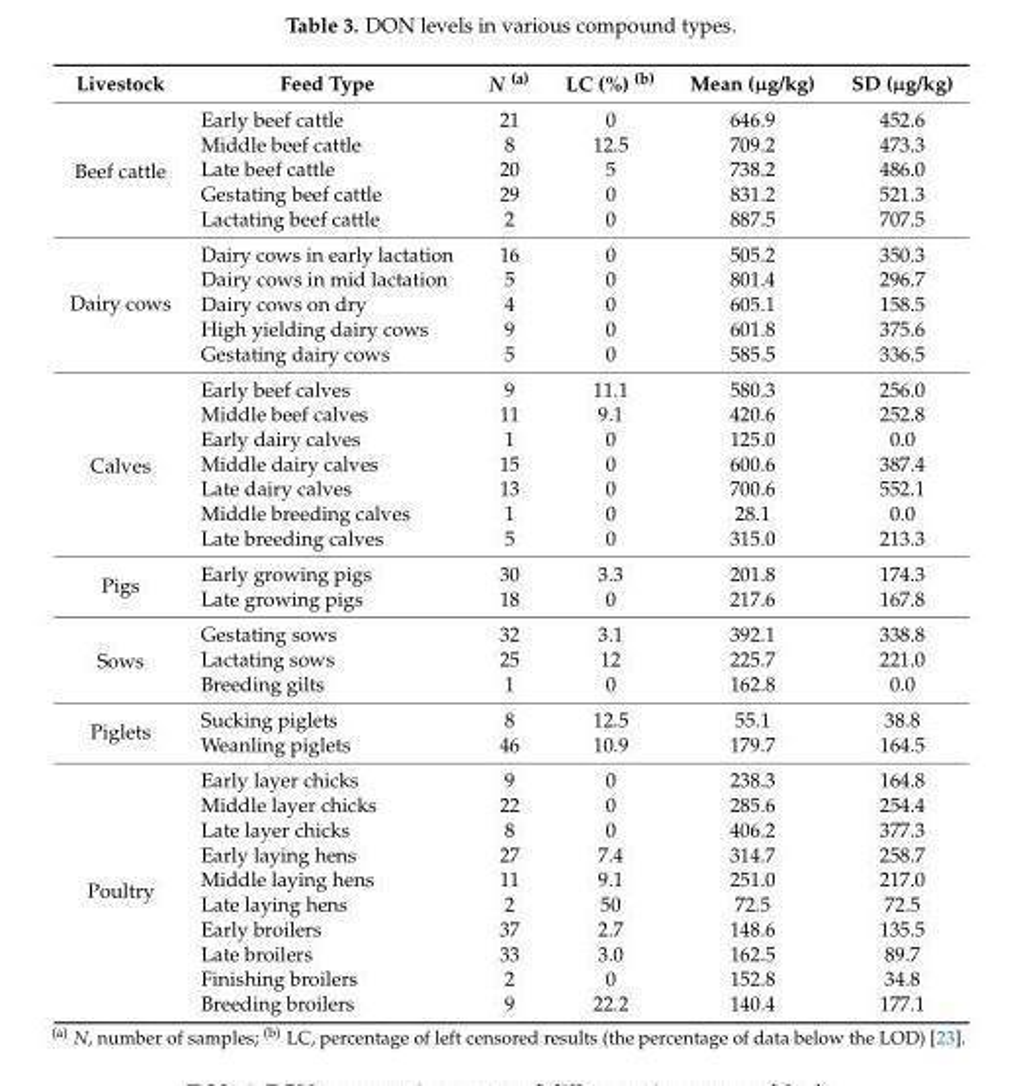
<table><thead><tr><td>Livestock</td><td>Feed Type</td><td>N <sup>(a)</sup></td><td>LC (%) <sup>(b)</sup></td><td>Mean (µg/kg)</td><td>SD (µg/kg)</td></tr></thead><tbody><tr><td rowspan="5">Beef cattle</td><td>Early beef cattle</td><td>21</td><td>0</td><td>646.9</td><td>452.6</td></tr><tr><td>Middle beef cattle</td><td>8</td><td>12.5</td><td>709.2</td><td>473.3</td></tr><tr><td>Late beef cattle</td><td>20</td><td>5</td><td>738.2</td><td>486.0</td></tr><tr><td>Gestating beef cattle</td><td>29</td><td>0</td><td>831.2</td><td>521.3</td></tr><tr><td>Lactating beef cattle</td><td>2</td><td>0</td><td>887.5</td><td>707.5</td></tr><tr><td rowspan="5">Dairy cows</td><td>Dairy cows in early lactation</td><td>16</td><td>0</td><td>505.2</td><td>350.3</td></tr><tr><td>Dairy cows in mid lactation</td><td>5</td><td>0</td><td>801.4</td><td>296.7</td></tr><tr><td>Dairy cows on dry</td><td>4</td><td>0</td><td>605.1</td><td>158.5</td></tr><tr><td>High yielding dairy cows</td><td>9</td><td>0</td><td>601.8</td><td>375.6</td></tr><tr><td>Gestating dairy cows</td><td>5</td><td>0</td><td>585.5</td><td>336.5</td></tr><tr><td rowspan="7">Calves</td><td>Early beef calves</td><td>9</td><td>11.1</td><td>580.3</td><td>256.0</td></tr><tr><td>Middle beef calves</td><td>11</td><td>9.1</td><td>420.6</td><td>252.8</td></tr><tr><td>Early dairy calves</td><td>1</td><td>0</td><td>125.0</td><td>0.0</td></tr><tr><td>Middle dairy calves</td><td>15</td><td>0</td><td>600.6</td><td>387.4</td></tr><tr><td>Late dairy calves</td><td>13</td><td>0</td><td>700.6</td><td>552.1</td></tr><tr><td>Middle breeding calves</td><td>1</td><td>0</td><td>28.1</td><td>0.0</td></tr><tr><td>Late breeding calves</td><td>5</td><td>0</td><td>315.0</td><td>213.3</td></tr><tr><td rowspan="2">Pigs</td><td>Early growing pigs</td><td>30</td><td>3.3</td><td>201.8</td><td>174.3</td></tr><tr><td>Late growing pigs</td><td>18</td><td>0</td><td>217.6</td><td>167.8</td></tr><tr><td rowspan="3">Sows</td><td>Gestating sows</td><td>32</td><td>3.1</td><td>392.1</td><td>338.8</td></tr><tr><td>Lactating sows</td><td>25</td><td>12</td><td>225.7</td><td>221.0</td></tr><tr><td>Breeding gilts</td><td>1</td><td>0</td><td>162.8</td><td>0.0</td></tr><tr><td rowspan="2">Piglets</td><td>Sucking piglets</td><td>8</td><td>12.5</td><td>55.1</td><td>38.8</td></tr><tr><td>Weanling piglets</td><td>46</td><td>10.9</td><td>179.7</td><td>164.5</td></tr><tr><td rowspan="10">Poultry</td><td>Early layer chicks</td><td>9</td><td>0</td><td>238.3</td><td>164.8</td></tr><tr><td>Middle layer chicks</td><td>22</td><td>0</td><td>285.6</td><td>254.4</td></tr><tr><td>Late layer chicks</td><td>8</td><td>0</td><td>406.2</td><td>377.3</td></tr><tr><td>Early laying hens</td><td>27</td><td>7.4</td><td>314.7</td><td>258.7</td></tr><tr><td>Middle laying hens</td><td>11</td><td>9.1</td><td>251.0</td><td>217.0</td></tr><tr><td>Late laying hens</td><td>2</td><td>50</td><td>72.5</td><td>72.5</td></tr><tr><td>Early broilers</td><td>37</td><td>2.7</td><td>148.6</td><td>135.5</td></tr><tr><td>Late broilers</td><td>33</td><td>3.0</td><td>162.5</td><td>89.7</td></tr><tr><td>Finishing broilers</td><td>2</td><td>0</td><td>152.8</td><td>34.8</td></tr><tr><td>Breeding broilers</td><td>9</td><td>22.2</td><td>140.4</td><td>177.1</td></tr></tbody></table>